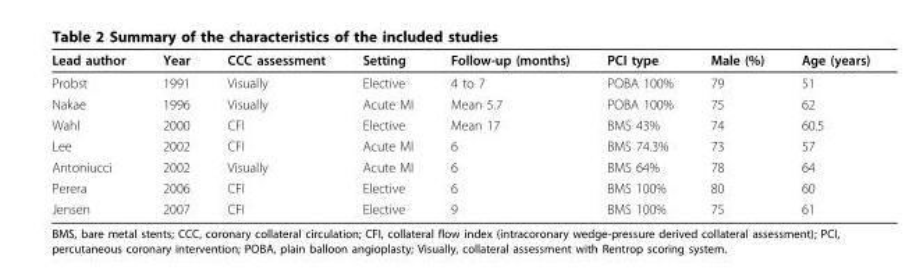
<table><thead><tr><td>Lead author</td><td>Year</td><td>CCC assessment</td><td>Setting</td><td>Follow-up (months)</td><td>PCI type</td><td>Male (%)</td><td>Age (years)</td></tr></thead><tbody><tr><td>Probst</td><td>1991</td><td>Visually</td><td>Elective</td><td>4 to 7</td><td>POBA 100%</td><td>79</td><td>51</td></tr><tr><td>Nakae</td><td>1996</td><td>Visually</td><td>Acute MI</td><td>Mean 5.7</td><td>POBA 100%</td><td>75</td><td>62</td></tr><tr><td>Wahl</td><td>2000</td><td>CFI</td><td>Elective</td><td>Mean 17</td><td>BMS 43%</td><td>74</td><td>60.5</td></tr><tr><td>Lee</td><td>2002</td><td>CFI</td><td>Acute MI</td><td>6</td><td>BMS 74.3%</td><td>73</td><td>57</td></tr><tr><td>Antoniucci</td><td>2002</td><td>Visually</td><td>Acute MI</td><td>6</td><td>BMS 64%</td><td>78</td><td>64</td></tr><tr><td>Perera</td><td>2006</td><td>CFI</td><td>Elective</td><td>6</td><td>BMS 100%</td><td>80</td><td>60</td></tr><tr><td>Jensen</td><td>2007</td><td>CFI</td><td>Elective</td><td>9</td><td>BMS 100%</td><td>75</td><td>61</td></tr></tbody></table>